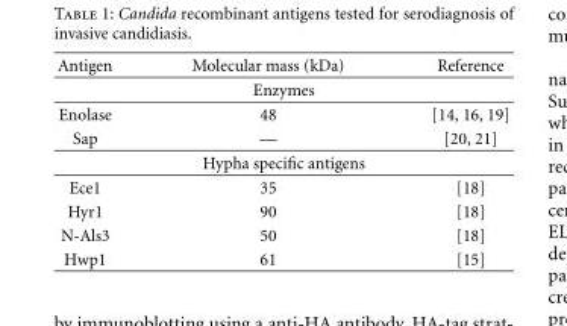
<table><thead><tr><td>Antigen</td><td>Molecular mass (kDa)</td><td>Reference</td></tr></thead><tbody><tr><td colspan="3">Enzymes</td></tr><tr><td>Enolase</td><td>48</td><td>[14, 16, 19]</td></tr><tr><td>Sap</td><td>—</td><td>[20, 21]</td></tr><tr><td colspan="3">Hypha specific antigens</td></tr><tr><td>Ece1</td><td>35</td><td>[18]</td></tr><tr><td>Hyr1</td><td>90</td><td>[18]</td></tr><tr><td>N-Als3</td><td>50</td><td>[18]</td></tr><tr><td>Hwp1</td><td>61</td><td>[15]</td></tr></tbody></table>